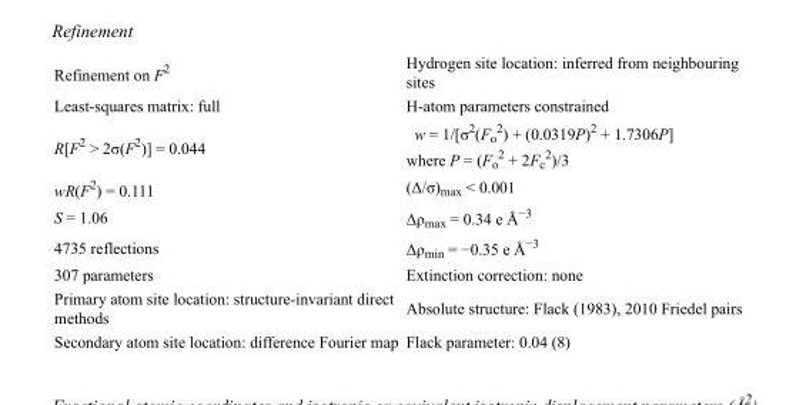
<table><tbody><tr><td>Refinement on F<sup>2</sup></td><td>Hydrogen site location: inferred from neighbouring sites</td></tr><tr><td>Least-squares matrix: full</td><td>H-atom parameters constrained</td></tr><tr><td>R[F<sup>2</sup> &gt; 2σ(F<sup>2</sup>)] = 0.044</td><td>w = 1/[σ<sup>2</sup>(F<sub>o</sub> <sup>2</sup>) + (0.0319P)<sup>2</sup> + 1.7306P] where P = (F<sub>o</sub> <sup>2</sup> + 2F<sub>c</sub> <sup>2</sup>)/3</td></tr><tr><td>wR(F<sup>2</sup>) = 0.111</td><td>(Δ/σ)<sub>max</sub> &lt; 0.001</td></tr><tr><td>S = 1.06</td><td>Δρ<sub>max</sub> = 0.34 e Å<sup>−3</sup></td></tr><tr><td>4735 reflections</td><td>Δρ<sub>min</sub> = −0.35 e Å<sup>−3</sup></td></tr><tr><td>307 parameters</td><td>Extinction correction: none</td></tr><tr><td>Primary atom site location: structure-invariant direct methods</td><td>Absolute structure: Flack (1983), 2010 Friedel pairs</td></tr><tr><td>Secondary atom site location: difference Fourier map</td><td>Flack parameter: 0.04 (8)</td></tr></tbody></table>